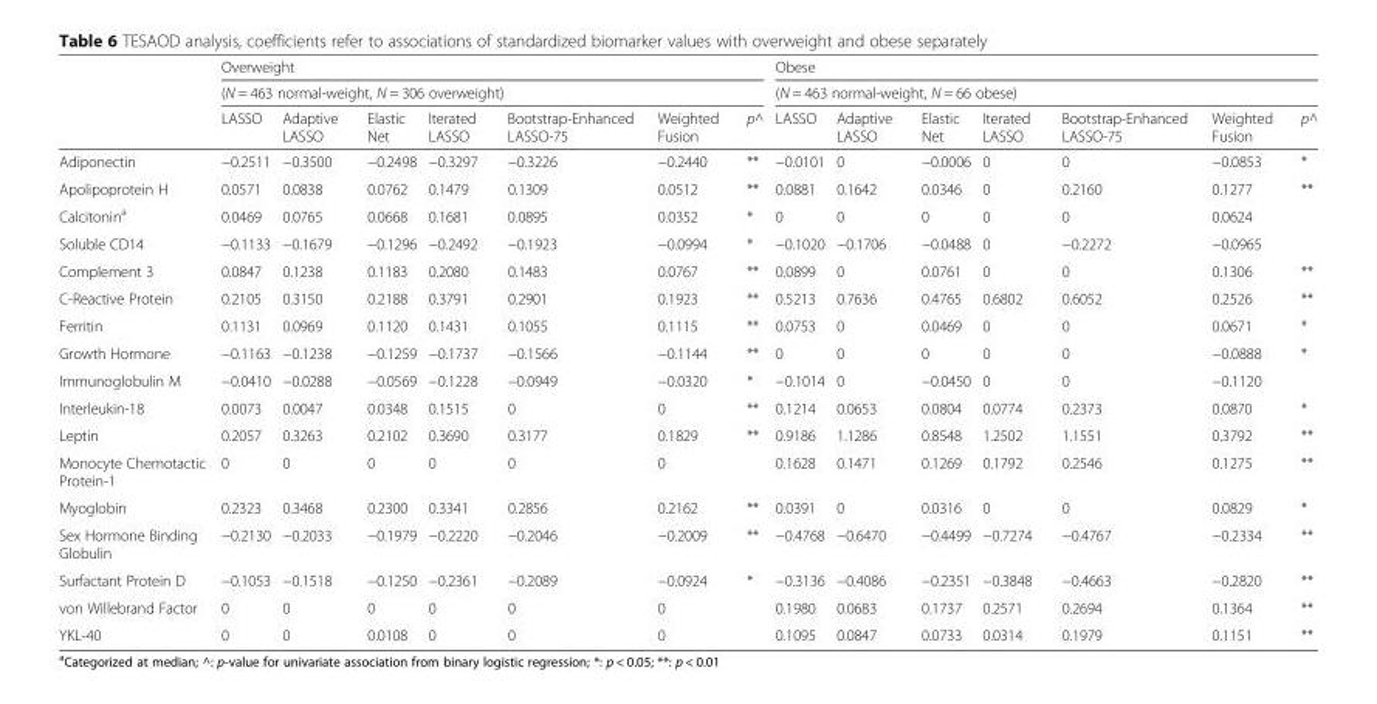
<table><thead><tr><td rowspan="3"></td><td rowspan="2" colspan="7">Overweight (N = 463 normal-weight, N = 306 overweight)</td><td rowspan="2" colspan="7">Obese (N = 463 normal-weight, N = 66 obese)</td></tr><tr></tr><tr><td>LASSO</td><td>Adaptive LASSO</td><td>Elastic Net</td><td>Iterated LASSO</td><td>Bootstrap-Enhanced LASSO-75</td><td>Weighted Fusion</td><td>p^</td><td>LASSO</td><td>Adaptive LASSO</td><td>Elastic Net</td><td>Iterated LASSO</td><td>Bootstrap-Enhanced LASSO-75</td><td>Weighted Fusion</td><td>p^</td></tr></thead><tbody><tr><td>Adiponectin</td><td>−0.2511</td><td>−0.3500</td><td>−0.2498</td><td>−0.3297</td><td>−0.3226</td><td>−0.2440</td><td>**</td><td>−0.0101</td><td>0</td><td>−0.0006</td><td>0</td><td>0</td><td>−0.0853</td><td>*</td></tr><tr><td>Apolipoprotein H</td><td>0.0571</td><td>0.0838</td><td>0.0762</td><td>0.1479</td><td>0.1309</td><td>0.0512</td><td>**</td><td>0.0881</td><td>0.1642</td><td>0.0346</td><td>0</td><td>0.2160</td><td>0.1277</td><td>**</td></tr><tr><td>Calcitonin<sup>a</sup></td><td>0.0469</td><td>0.0765</td><td>0.0668</td><td>0.1681</td><td>0.0895</td><td>0.0352</td><td>*</td><td>0</td><td>0</td><td>0</td><td>0</td><td>0</td><td>0.0624</td><td></td></tr><tr><td>Soluble CD14</td><td>−0.1133</td><td>−0.1679</td><td>−0.1296</td><td>−0.2492</td><td>−0.1923</td><td>−0.0994</td><td>*</td><td>−0.1020</td><td>−0.1706</td><td>−0.0488</td><td>0</td><td>−0.2272</td><td>−0.0965</td><td></td></tr><tr><td>Complement 3</td><td>0.0847</td><td>0.1238</td><td>0.1183</td><td>0.2080</td><td>0.1483</td><td>0.0767</td><td>**</td><td>0.0899</td><td>0</td><td>0.0761</td><td>0</td><td>0</td><td>0.1306</td><td>**</td></tr><tr><td>C-Reactive Protein</td><td>0.2105</td><td>0.3150</td><td>0.2188</td><td>0.3791</td><td>0.2901</td><td>0.1923</td><td>**</td><td>0.5213</td><td>0.7636</td><td>0.4765</td><td>0.6802</td><td>0.6052</td><td>0.2526</td><td>**</td></tr><tr><td>Ferritin</td><td>0.1131</td><td>0.0969</td><td>0.1120</td><td>0.1431</td><td>0.1055</td><td>0.1115</td><td>**</td><td>0.0753</td><td>0</td><td>0.0469</td><td>0</td><td>0</td><td>0.0671</td><td>*</td></tr><tr><td>Growth Hormone</td><td>−0.1163</td><td>−0.1238</td><td>−0.1259</td><td>−0.1737</td><td>−0.1566</td><td>−0.1144</td><td>**</td><td>0</td><td>0</td><td>0</td><td>0</td><td>0</td><td>−0.0888</td><td>*</td></tr><tr><td>Immunoglobulin M</td><td>−0.0410</td><td>−0.0288</td><td>−0.0569</td><td>−0.1228</td><td>−0.0949</td><td>−0.0320</td><td>*</td><td>−0.1014</td><td>0</td><td>−0.0450</td><td>0</td><td>0</td><td>−0.1120</td><td></td></tr><tr><td>Interleukin-18</td><td>0.0073</td><td>0.0047</td><td>0.0348</td><td>0.1515</td><td>0</td><td>0</td><td>**</td><td>0.1214</td><td>0.0653</td><td>0.0804</td><td>0.0774</td><td>0.2373</td><td>0.0870</td><td>*</td></tr><tr><td>Leptin</td><td>0.2057</td><td>0.3263</td><td>0.2102</td><td>0.3690</td><td>0.3177</td><td>0.1829</td><td>**</td><td>0.9186</td><td>1.1286</td><td>0.8548</td><td>1.2502</td><td>1.1551</td><td>0.3792</td><td>**</td></tr><tr><td>Monocyte Chemotactic Protein-1</td><td>0</td><td>0</td><td>0</td><td>0</td><td>0</td><td>0</td><td></td><td>0.1628</td><td>0.1471</td><td>0.1269</td><td>0.1792</td><td>0.2546</td><td>0.1275</td><td>**</td></tr><tr><td>Myoglobin</td><td>0.2323</td><td>0.3468</td><td>0.2300</td><td>0.3341</td><td>0.2856</td><td>0.2162</td><td>**</td><td>0.0391</td><td>0</td><td>0.0316</td><td>0</td><td>0</td><td>0.0829</td><td>*</td></tr><tr><td>Sex Hormone Binding Globulin</td><td>−0.2130</td><td>−0.2033</td><td>−0.1979</td><td>−0.2220</td><td>−0.2046</td><td>−0.2009</td><td>**</td><td>−0.4768</td><td>−0.6470</td><td>−0.4499</td><td>−0.7274</td><td>−0.4767</td><td>−0.2334</td><td>**</td></tr><tr><td>Surfactant Protein D</td><td>−0.1053</td><td>−0.1518</td><td>−0.1250</td><td>−0.2361</td><td>−0.2089</td><td>−0.0924</td><td>*</td><td>−0.3136</td><td>−0.4086</td><td>−0.2351</td><td>−0.3848</td><td>−0.4663</td><td>−0.2820</td><td>**</td></tr><tr><td>von Willebrand Factor</td><td>0</td><td>0</td><td>0</td><td>0</td><td>0</td><td>0</td><td></td><td>0.1980</td><td>0.0683</td><td>0.1737</td><td>0.2571</td><td>0.2694</td><td>0.1364</td><td>**</td></tr><tr><td>YKL-40</td><td>0</td><td>0</td><td>0.0108</td><td>0</td><td>0</td><td>0</td><td></td><td>0.1095</td><td>0.0847</td><td>0.0733</td><td>0.0314</td><td>0.1979</td><td>0.1151</td><td>**</td></tr></tbody></table>